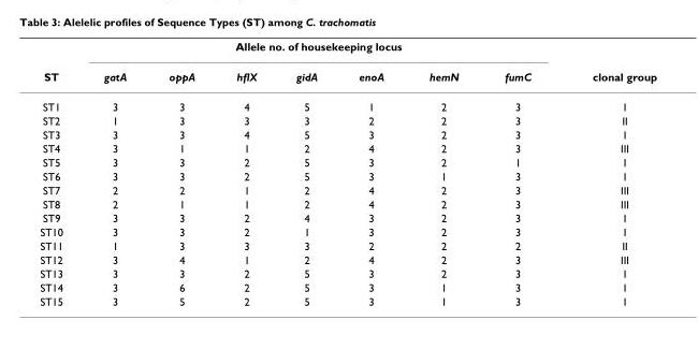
<table><thead><tr><td rowspan="2">ST</td><td colspan="7">Allele no. of housekeeping locus</td><td rowspan="2">clonal group</td></tr><tr><td>gatA</td><td>oppA</td><td>hflX</td><td>gidA</td><td>enoA</td><td>hemN</td><td>fumC</td></tr></thead><tbody><tr><td>ST1</td><td>3</td><td>3</td><td>4</td><td>5</td><td>1</td><td>2</td><td>3</td><td>I</td></tr><tr><td>ST2</td><td>1</td><td>3</td><td>3</td><td>3</td><td>2</td><td>2</td><td>3</td><td>II</td></tr><tr><td>ST3</td><td>3</td><td>3</td><td>4</td><td>5</td><td>3</td><td>2</td><td>3</td><td>I</td></tr><tr><td>ST4</td><td>3</td><td>1</td><td>1</td><td>2</td><td>4</td><td>2</td><td>3</td><td>III</td></tr><tr><td>ST5</td><td>3</td><td>3</td><td>2</td><td>5</td><td>3</td><td>2</td><td>1</td><td>I</td></tr><tr><td>ST6</td><td>3</td><td>3</td><td>2</td><td>5</td><td>3</td><td>1</td><td>3</td><td>I</td></tr><tr><td>ST7</td><td>2</td><td>2</td><td>1</td><td>2</td><td>4</td><td>2</td><td>3</td><td>III</td></tr><tr><td>ST8</td><td>2</td><td>1</td><td>1</td><td>2</td><td>4</td><td>2</td><td>3</td><td>III</td></tr><tr><td>ST9</td><td>3</td><td>3</td><td>2</td><td>4</td><td>3</td><td>2</td><td>3</td><td>I</td></tr><tr><td>ST10</td><td>3</td><td>3</td><td>2</td><td>1</td><td>3</td><td>2</td><td>3</td><td>I</td></tr><tr><td>ST11</td><td>1</td><td>3</td><td>3</td><td>3</td><td>2</td><td>2</td><td>2</td><td>II</td></tr><tr><td>ST12</td><td>3</td><td>4</td><td>1</td><td>2</td><td>4</td><td>2</td><td>3</td><td>III</td></tr><tr><td>ST13</td><td>3</td><td>3</td><td>2</td><td>5</td><td>3</td><td>2</td><td>3</td><td>I</td></tr><tr><td>ST14</td><td>3</td><td>6</td><td>2</td><td>5</td><td>3</td><td>1</td><td>3</td><td>I</td></tr><tr><td>ST15</td><td>3</td><td>5</td><td>2</td><td>5</td><td>3</td><td>1</td><td>3</td><td>I</td></tr></tbody></table>